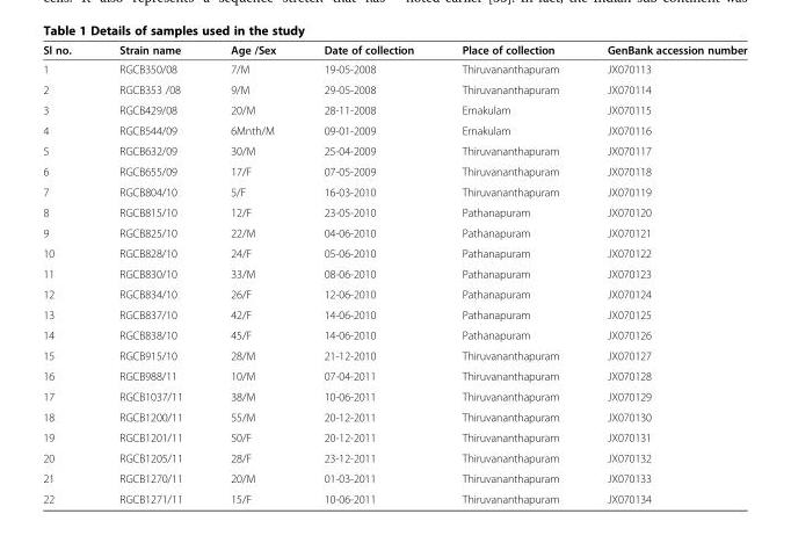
<table><thead><tr><td>Sl no.</td><td>Strain name</td><td>Age /Sex</td><td>Date of collection</td><td>Place of collection</td><td>GenBank accession number</td></tr></thead><tbody><tr><td>1</td><td>RGCB350/08</td><td>7/M</td><td>19-05-2008</td><td>Thiruvananthapuram</td><td>JX070113</td></tr><tr><td>2</td><td>RGCB353 /08</td><td>9/M</td><td>29-05-2008</td><td>Thiruvananthapuram</td><td>JX070114</td></tr><tr><td>3</td><td>RGCB429/08</td><td>20/M</td><td>28-11-2008</td><td>Ernakulam</td><td>JX070115</td></tr><tr><td>4</td><td>RGCB544/09</td><td>6Mnth/M</td><td>09-01-2009</td><td>Ernakulam</td><td>JX070116</td></tr><tr><td>5</td><td>RGCB632/09</td><td>30/M</td><td>25-04-2009</td><td>Thiruvananthapuram</td><td>JX070117</td></tr><tr><td>6</td><td>RGCB655/09</td><td>17/F</td><td>07-05-2009</td><td>Thiruvananthapuram</td><td>JX070118</td></tr><tr><td>7</td><td>RGCB804/10</td><td>5/F</td><td>16-03-2010</td><td>Thiruvananthapuram</td><td>JX070119</td></tr><tr><td>8</td><td>RGCB815/10</td><td>12/F</td><td>23-05-2010</td><td>Pathanapuram</td><td>JX070120</td></tr><tr><td>9</td><td>RGCB825/10</td><td>22/M</td><td>04-06-2010</td><td>Pathanapuram</td><td>JX070121</td></tr><tr><td>10</td><td>RGCB828/10</td><td>24/F</td><td>05-06-2010</td><td>Pathanapuram</td><td>JX070122</td></tr><tr><td>11</td><td>RGCB830/10</td><td>33/M</td><td>08-06-2010</td><td>Pathanapuram</td><td>JX070123</td></tr><tr><td>12</td><td>RGCB834/10</td><td>26/F</td><td>12-06-2010</td><td>Pathanapuram</td><td>JX070124</td></tr><tr><td>13</td><td>RGCB837/10</td><td>42/F</td><td>14-06-2010</td><td>Pathanapuram</td><td>JX070125</td></tr><tr><td>14</td><td>RGCB838/10</td><td>45/F</td><td>14-06-2010</td><td>Pathanapuram</td><td>JX070126</td></tr><tr><td>15</td><td>RGCB915/10</td><td>28/M</td><td>21-12-2010</td><td>Thiruvananthapuram</td><td>JX070127</td></tr><tr><td>16</td><td>RGCB988/11</td><td>10/M</td><td>07-04-2011</td><td>Thiruvananthapuram</td><td>JX070128</td></tr><tr><td>17</td><td>RGCB1037/11</td><td>38/M</td><td>10-06-2011</td><td>Thiruvananthapuram</td><td>JX070129</td></tr><tr><td>18</td><td>RGCB1200/11</td><td>55/M</td><td>20-12-2011</td><td>Thiruvananthapuram</td><td>JX070130</td></tr><tr><td>19</td><td>RGCB1201/11</td><td>50/F</td><td>20-12-2011</td><td>Thiruvananthapuram</td><td>JX070131</td></tr><tr><td>20</td><td>RGCB1205/11</td><td>28/F</td><td>23-12-2011</td><td>Thiruvananthapuram</td><td>JX070132</td></tr><tr><td>21</td><td>RGCB1270/11</td><td>20/M</td><td>01-03-2011</td><td>Thiruvananthapuram</td><td>JX070133</td></tr><tr><td>22</td><td>RGCB1271/11</td><td>15/F</td><td>10-06-2011</td><td>Thiruvananthapuram</td><td>JX070134</td></tr></tbody></table>